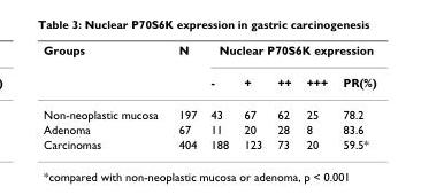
<table><thead><tr><td rowspan="2">Groups</td><td rowspan="2">N</td><td colspan="5">Nuclear P70S6K expression</td></tr><tr><td>-</td><td>+</td><td>++</td><td>+++</td><td>PR(%)</td></tr></thead><tbody><tr><td>Non-neoplastic mucosa</td><td>197</td><td>43</td><td>67</td><td>62</td><td>25</td><td>78.2</td></tr><tr><td>Adenoma</td><td>67</td><td>11</td><td>20</td><td>28</td><td>8</td><td>83.6</td></tr><tr><td>Carcinomas</td><td>404</td><td>188</td><td>123</td><td>73</td><td>20</td><td>59.5*</td></tr></tbody></table>